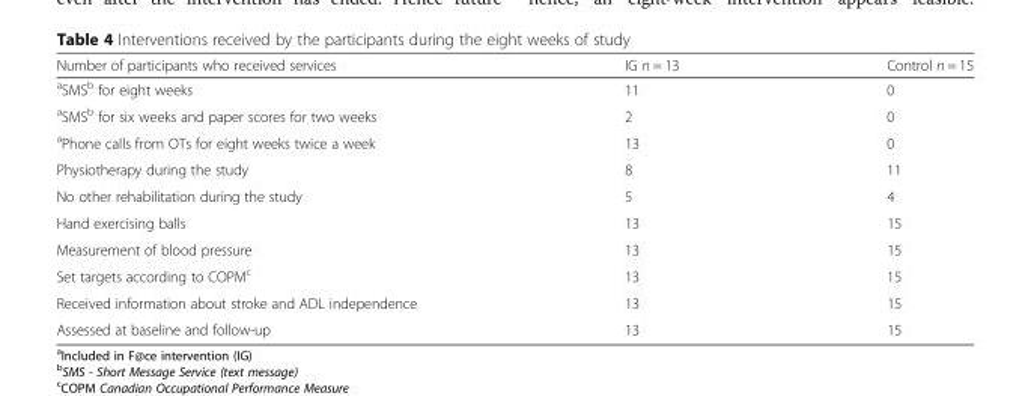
<table><thead><tr><td>Number of participants who received services</td><td>IG n = 13</td><td>Control n = 15</td></tr></thead><tbody><tr><td><sup>a</sup>SMS<sup>b</sup> for eight weeks</td><td>11</td><td>0</td></tr><tr><td><sup>a</sup>SMS<sup>b</sup> for six weeks and paper scores for two weeks</td><td>2</td><td>0</td></tr><tr><td><sup>a</sup>Phone calls from OTs for eight weeks twice a week</td><td>13</td><td>0</td></tr><tr><td>Physiotherapy during the study</td><td>8</td><td>11</td></tr><tr><td>No other rehabilitation during the study</td><td>5</td><td>4</td></tr><tr><td>Hand exercising balls</td><td>13</td><td>15</td></tr><tr><td>Measurement of blood pressure</td><td>13</td><td>15</td></tr><tr><td>Set targets according to COPM<sup>c</sup></td><td>13</td><td>15</td></tr><tr><td>Received information about stroke and ADL independence</td><td>13</td><td>15</td></tr><tr><td>Assessed at baseline and follow-up</td><td>13</td><td>15</td></tr></tbody></table>